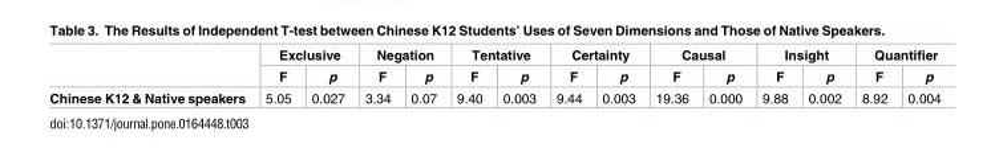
<table><thead><tr><td rowspan="2"></td><td colspan="2">Exclusive</td><td colspan="2">Negation</td><td colspan="2">Tentative</td><td colspan="2">Certainty</td><td colspan="2">Causal</td><td colspan="2">Insight</td><td colspan="2">Quantifier</td></tr><tr><td>F</td><td>p</td><td>F</td><td>p</td><td>F</td><td>p</td><td>F</td><td>p</td><td>F</td><td>p</td><td>F</td><td>p</td><td>F</td><td>p</td></tr></thead><tbody><tr><td>Chinese K12 &amp; Native speakers</td><td>5.05</td><td>0.027</td><td>3.34</td><td>0.07</td><td>9.40</td><td>0.003</td><td>9.44</td><td>0.003</td><td>19.36</td><td>0.000</td><td>9.88</td><td>0.002</td><td>8.92</td><td>0.004</td></tr></tbody></table>